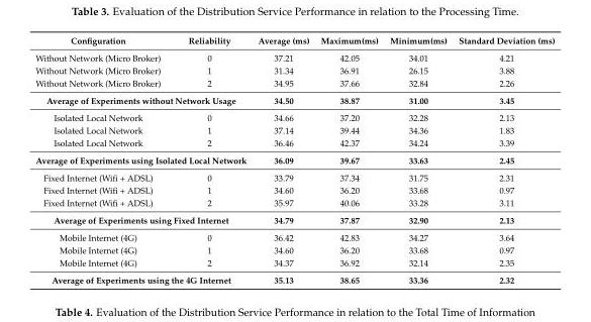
<table><thead><tr><td>Configuration</td><td>Reliability</td><td>Average (ms)</td><td>Maximum(ms)</td><td>Minimum(ms)</td><td>Standard Deviation (ms)</td></tr></thead><tbody><tr><td>Without Network (Micro Broker)</td><td>0</td><td>37.21</td><td>42.05</td><td>34.01</td><td>4.21</td></tr><tr><td>Without Network (Micro Broker)</td><td>1</td><td>31.34</td><td>36.91</td><td>26.15</td><td>3.88</td></tr><tr><td>Without Network (Micro Broker)</td><td>2</td><td>34.95</td><td>37.66</td><td>32.84</td><td>2.26</td></tr><tr><td colspan="2">Average of Experiments without Network Usage</td><td>34.50</td><td>38.87</td><td>31.00</td><td>3.45</td></tr><tr><td>Isolated Local Network</td><td>0</td><td>34.66</td><td>37.20</td><td>32.28</td><td>2.13</td></tr><tr><td>Isolated Local Network</td><td>1</td><td>37.14</td><td>39.44</td><td>34.36</td><td>1.83</td></tr><tr><td>Isolated Local Network</td><td>2</td><td>36.46</td><td>42.37</td><td>34.24</td><td>3.39</td></tr><tr><td colspan="2">Average of Experiments using Isolated Local Network</td><td>36.09</td><td>39.67</td><td>33.63</td><td>2.45</td></tr><tr><td>Fixed Internet (Wifi + ADSL)</td><td>0</td><td>33.79</td><td>37.34</td><td>31.75</td><td>2.31</td></tr><tr><td>Fixed Internet (Wifi + ADSL)</td><td>1</td><td>34.60</td><td>36.20</td><td>33.68</td><td>0.97</td></tr><tr><td>Fixed Internet (Wifi + ADSL)</td><td>2</td><td>35.97</td><td>40.06</td><td>33.28</td><td>3.11</td></tr><tr><td colspan="2">Average of Experiments using Fixed Internet</td><td>34.79</td><td>37.87</td><td>32.90</td><td>2.13</td></tr><tr><td>Mobile Internet (4G)</td><td>0</td><td>36.42</td><td>42.83</td><td>34.27</td><td>3.64</td></tr><tr><td>Mobile Internet (4G)</td><td>1</td><td>34.60</td><td>36.20</td><td>33.68</td><td>0.97</td></tr><tr><td>Mobile Internet (4G)</td><td>2</td><td>34.37</td><td>36.92</td><td>32.14</td><td>2.35</td></tr><tr><td colspan="2">Average of Experiments using the 4G Internet</td><td>35.13</td><td>38.65</td><td>33.36</td><td>2.32</td></tr></tbody></table>